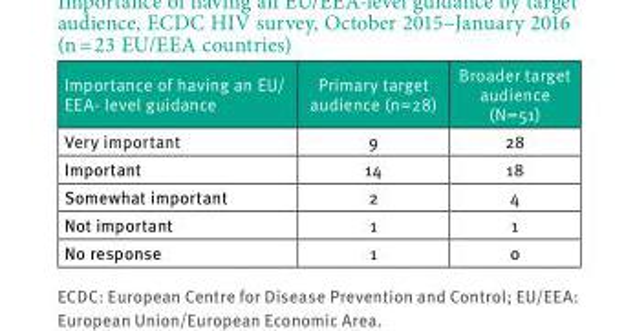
<table><thead><tr><td>Importance of having an EU/ EEA- level guidance</td><td>Primary target audience (n=28)</td><td>Broader target audience (N=51)</td></tr></thead><tbody><tr><td>Very important</td><td>9</td><td>28</td></tr><tr><td>Important</td><td>14</td><td>18</td></tr><tr><td>Somewhat important</td><td>2</td><td>4</td></tr><tr><td>Not important</td><td>1</td><td>1</td></tr><tr><td>No response</td><td>1</td><td>0</td></tr></tbody></table>